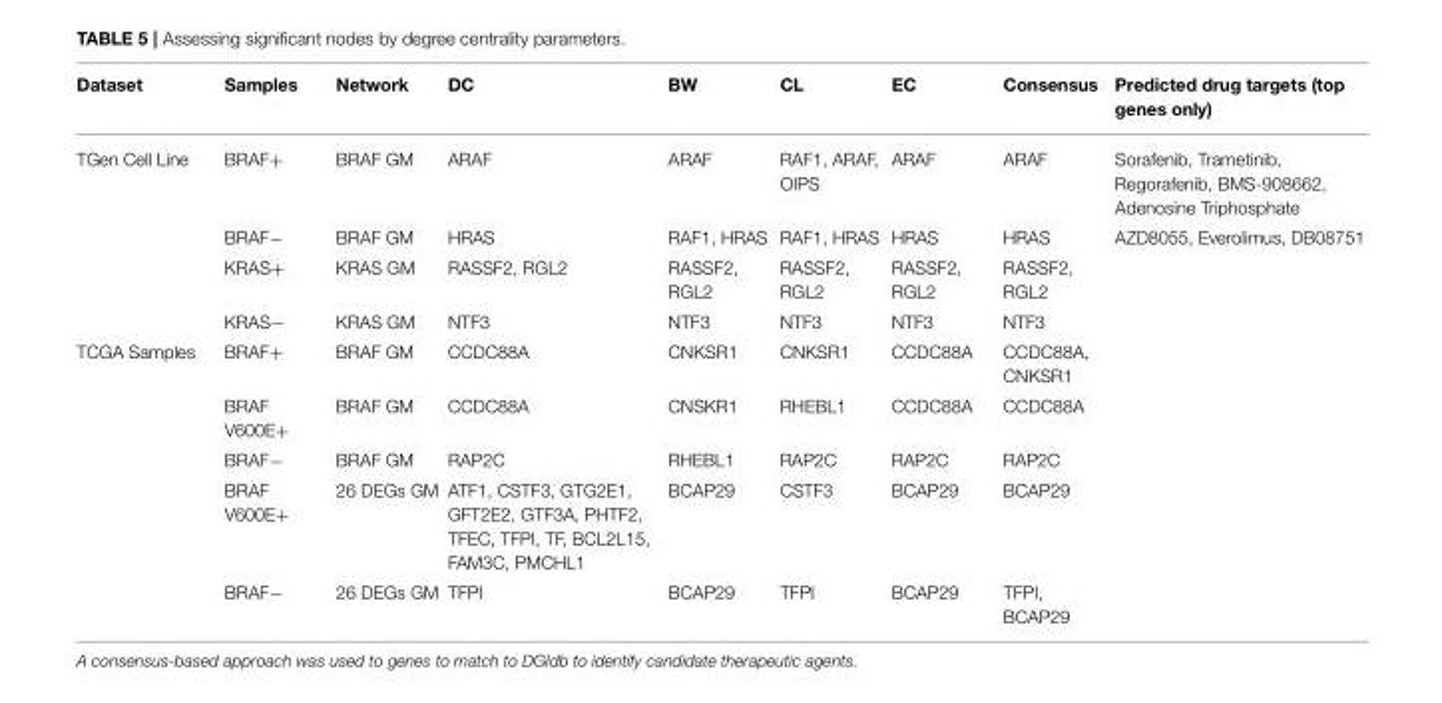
<table><thead><tr><td>Dataset</td><td>Samples</td><td>Network</td><td>DC</td><td>BW</td><td>CL</td><td>EC</td><td>Consensus</td><td>Predicted drug targets (top genes only)</td></tr></thead><tbody><tr><td rowspan="4">TGen Cell Line</td><td>BRAF+</td><td>BRAF GM</td><td>ARAF</td><td>ARAF</td><td>RAF1, ARAF, OIPS</td><td>ARAF</td><td>ARAF</td><td>Sorafenib, Trametinib, Regorafenib, BMS-908662, Adenosine Triphosphate</td></tr><tr><td>BRAF−</td><td>BRAF GM</td><td>HRAS</td><td>RAF1, HRAS</td><td>RAF1, HRAS</td><td>HRAS</td><td>HRAS</td><td>AZD8055, Everolimus, DB08751</td></tr><tr><td>KRAS+</td><td>KRAS GM</td><td>RASSF2, RGL2</td><td>RASSF2, RGL2</td><td>RASSF2, RGL2</td><td>RASSF2, RGL2</td><td>RASSF2, RGL2</td><td></td></tr><tr><td>KRAS−</td><td>KRAS GM</td><td>NTF3</td><td>NTF3</td><td>NTF3</td><td>NTF3</td><td>NTF3</td><td></td></tr><tr><td rowspan="5">TCGA Samples</td><td>BRAF+</td><td>BRAF GM</td><td>CCDC88A</td><td>CNKSR1</td><td>CNKSR1</td><td>CCDC88A</td><td>CCDC88A, CNKSR1</td><td></td></tr><tr><td>BRAF V600E+</td><td>BRAF GM</td><td>CCDC88A</td><td>CNSKR1</td><td>RHEBL1</td><td>CCDC88A</td><td>CCDC88A</td><td></td></tr><tr><td>BRAF−</td><td>BRAF GM</td><td>RAP2C</td><td>RHEBL1</td><td>RAP2C</td><td>RAP2C</td><td>RAP2C</td><td></td></tr><tr><td>BRAF V600E+</td><td>26 DEGs GM</td><td>ATF1, CSTF3, GTG2E1, GFT2E2, GTF3A, PHTF2, TFEC, TFPI, TF, BCL2L15, FAM3C, PMCHL1</td><td>BCAP29</td><td>CSTF3</td><td>BCAP29</td><td>BCAP29</td><td></td></tr><tr><td>BRAF−</td><td>26 DEGs GM</td><td>TFPI</td><td>BCAP29</td><td>TFPI</td><td>BCAP29</td><td>TFPI, BCAP29</td><td></td></tr></tbody></table>